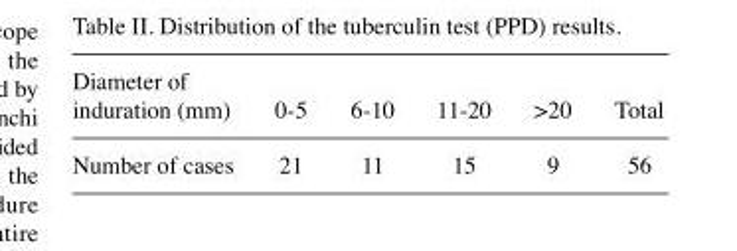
<table><thead><tr><td>Diameter of induration (mm)</td><td>0-5</td><td>6-10</td><td>11-20</td><td>&gt;20</td><td>Total</td></tr></thead><tbody><tr><td>Number of cases</td><td>21</td><td>11</td><td>15</td><td>9</td><td>56</td></tr></tbody></table>